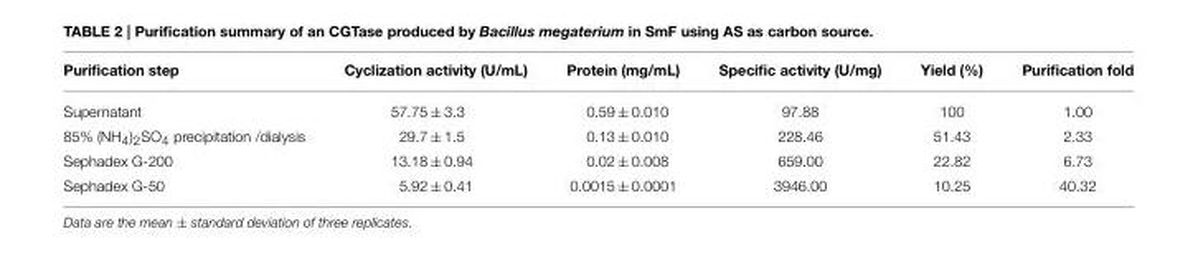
<table><thead><tr><td>Purification step</td><td>Cyclization activity (U/mL)</td><td>Protein (mg/mL)</td><td>Specific activity (U/mg)</td><td>Yield (%)</td><td>Purification fold</td></tr></thead><tbody><tr><td>Supernatant</td><td>57.75 ± 3.3</td><td>0.59 ± 0.010</td><td>97.88</td><td>100</td><td>1.00</td></tr><tr><td>85% (NH<sub>4</sub>)<sub>2</sub>SO<sub>4</sub> precipitation /dialysis</td><td>29.7 ± 1.5</td><td>0.13 ± 0.010</td><td>228.46</td><td>51.43</td><td>2.33</td></tr><tr><td>Sephadex G-200</td><td>13.18 ± 0.94</td><td>0.02 ± 0.008</td><td>659.00</td><td>22.82</td><td>6.73</td></tr><tr><td>Sephadex G-50</td><td>5.92 ± 0.41</td><td>0.0015 ± 0.0001</td><td>3946.00</td><td>10.25</td><td>40.32</td></tr></tbody></table>